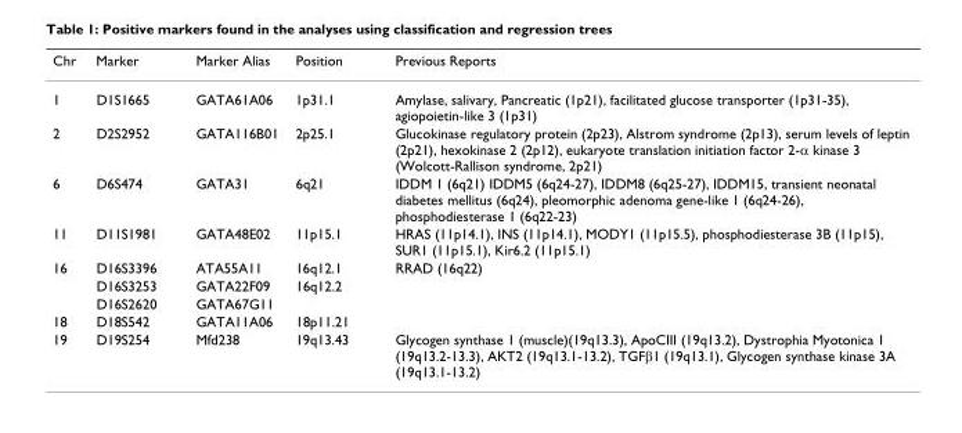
<table><thead><tr><td>Chr</td><td>Marker</td><td>Marker Alias</td><td>Position</td><td>Previous Reports</td></tr></thead><tbody><tr><td>1</td><td>D1S1665</td><td>GATA61A06</td><td>1p31.1</td><td>Amylase, salivary, Pancreatic (1p21), facilitated glucose transporter (1p31-35), agiopoietin-like 3 (1p31)</td></tr><tr><td>2</td><td>D2S2952</td><td>GATA116B01</td><td>2p25.1</td><td>Glucokinase regulatory protein (2p23), Alstrom syndrome (2p13), serum levels of leptin (2p21), hexokinase 2 (2p12), eukaryote translation initiation factor 2-α kinase 3 (Wolcott-Rallison syndrome, 2p21)</td></tr><tr><td>6</td><td>D6S474</td><td>GATA31</td><td>6q21</td><td>IDDM 1 (6q21) IDDM5 (6q24-27), IDDM8 (6q25-27), IDDM15, transient neonatal diabetes mellitus (6q24), pleomorphic adenoma gene-like 1 (6q24-26), phosphodiesterase 1 (6q22-23)</td></tr><tr><td>11</td><td>D11S1981</td><td>GATA48E02</td><td>11p15.1</td><td>HRAS (11p14.1), INS (11p14.1), MODY1 (11p15.5), phosphodiesterase 3B (11p15), SUR1 (11p15.1), Kir6.2 (11p15.1)</td></tr><tr><td rowspan="3">16</td><td>D16S3396</td><td>ATA55A11</td><td>16q12.1</td><td>RRAD (16q22)</td></tr><tr><td>D16S3253</td><td>GATA22F09</td><td>16q12.2</td><td></td></tr><tr><td>D16S2620</td><td>GATA67G11</td><td></td><td></td></tr><tr><td>18</td><td>D18S542</td><td>GATA11A06</td><td>18p11.21</td><td></td></tr><tr><td>19</td><td>D19S254</td><td>Mfd238</td><td>19q13.43</td><td>Glycogen synthase 1 (muscle)(19q13.3), ApoCIII (19q13.2), Dystrophia Myotonica 1 (19q13.2-13.3), AKT2 (19q13.1-13.2), TGFβ1 (19q13.1), Glycogen synthase kinase 3A (19q13.1-13.2)</td></tr></tbody></table>